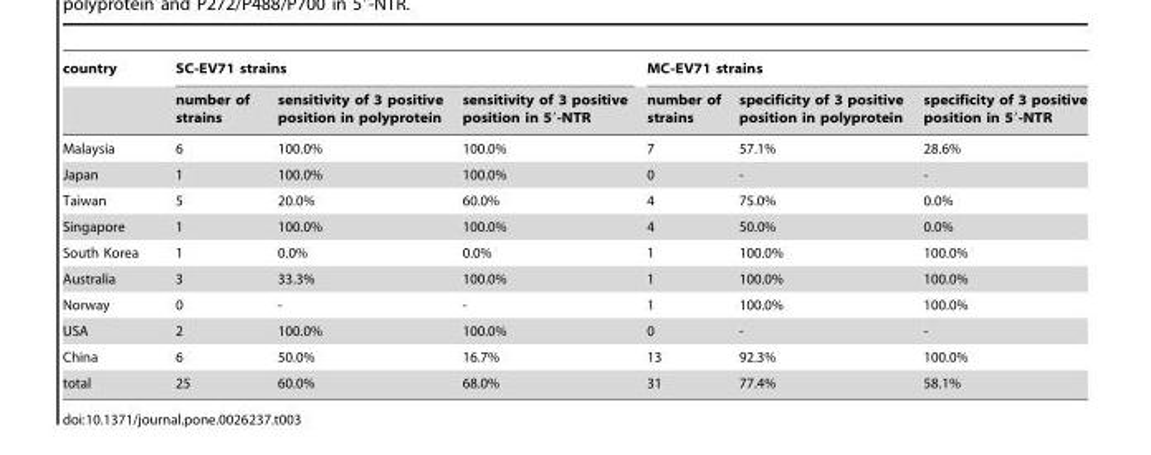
<table><thead><tr><td rowspan="2">country</td><td colspan="3">SC-EV71 strains</td><td colspan="3">MC-EV71 strains</td></tr><tr><td>number of strains</td><td>sensitivity of 3 positive position in polyprotein</td><td>sensitivity of 3 positive position in 5′-NTR</td><td>number of strains</td><td>specificity of 3 positive position in polyprotein</td><td>specificity of 3 positive position in 5′-NTR</td></tr></thead><tbody><tr><td>Malaysia</td><td>6</td><td>100.0%</td><td>100.0%</td><td>7</td><td>57.1%</td><td>28.6%</td></tr><tr><td>Japan</td><td>1</td><td>100.0%</td><td>100.0%</td><td>0</td><td>-</td><td>-</td></tr><tr><td>Taiwan</td><td>5</td><td>20.0%</td><td>60.0%</td><td>4</td><td>75.0%</td><td>0.0%</td></tr><tr><td>Singapore</td><td>1</td><td>100.0%</td><td>100.0%</td><td>4</td><td>50.0%</td><td>0.0%</td></tr><tr><td>South Korea</td><td>1</td><td>0.0%</td><td>0.0%</td><td>1</td><td>100.0%</td><td>100.0%</td></tr><tr><td>Australia</td><td>3</td><td>33.3%</td><td>100.0%</td><td>1</td><td>100.0%</td><td>100.0%</td></tr><tr><td>Norway</td><td>0</td><td>-</td><td>-</td><td>1</td><td>100.0%</td><td>100.0%</td></tr><tr><td>USA</td><td>2</td><td>100.0%</td><td>100.0%</td><td>0</td><td>-</td><td>-</td></tr><tr><td>China</td><td>6</td><td>50.0%</td><td>16.7%</td><td>13</td><td>92.3%</td><td>100.0%</td></tr><tr><td>total</td><td>25</td><td>60.0%</td><td>68.0%</td><td>31</td><td>77.4%</td><td>58.1%</td></tr></tbody></table>